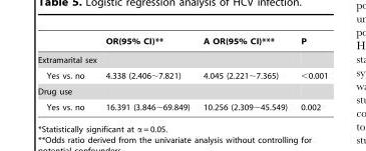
<table><thead><tr><td></td><td>OR(95% CI)**</td><td>A OR(95% CI)***</td><td>P</td></tr></thead><tbody><tr><td colspan="4">Extramarital sex</td></tr><tr><td>Yes vs. no</td><td>4.338 (2.406∼7.821)</td><td>4.045 (2.221∼7.365)</td><td>&lt;0.001</td></tr><tr><td colspan="4">Drug use</td></tr><tr><td>Yes vs. no</td><td>16.391 (3.846∼69.849)</td><td>10.256 (2.309∼45.549)</td><td>0.002</td></tr></tbody></table>